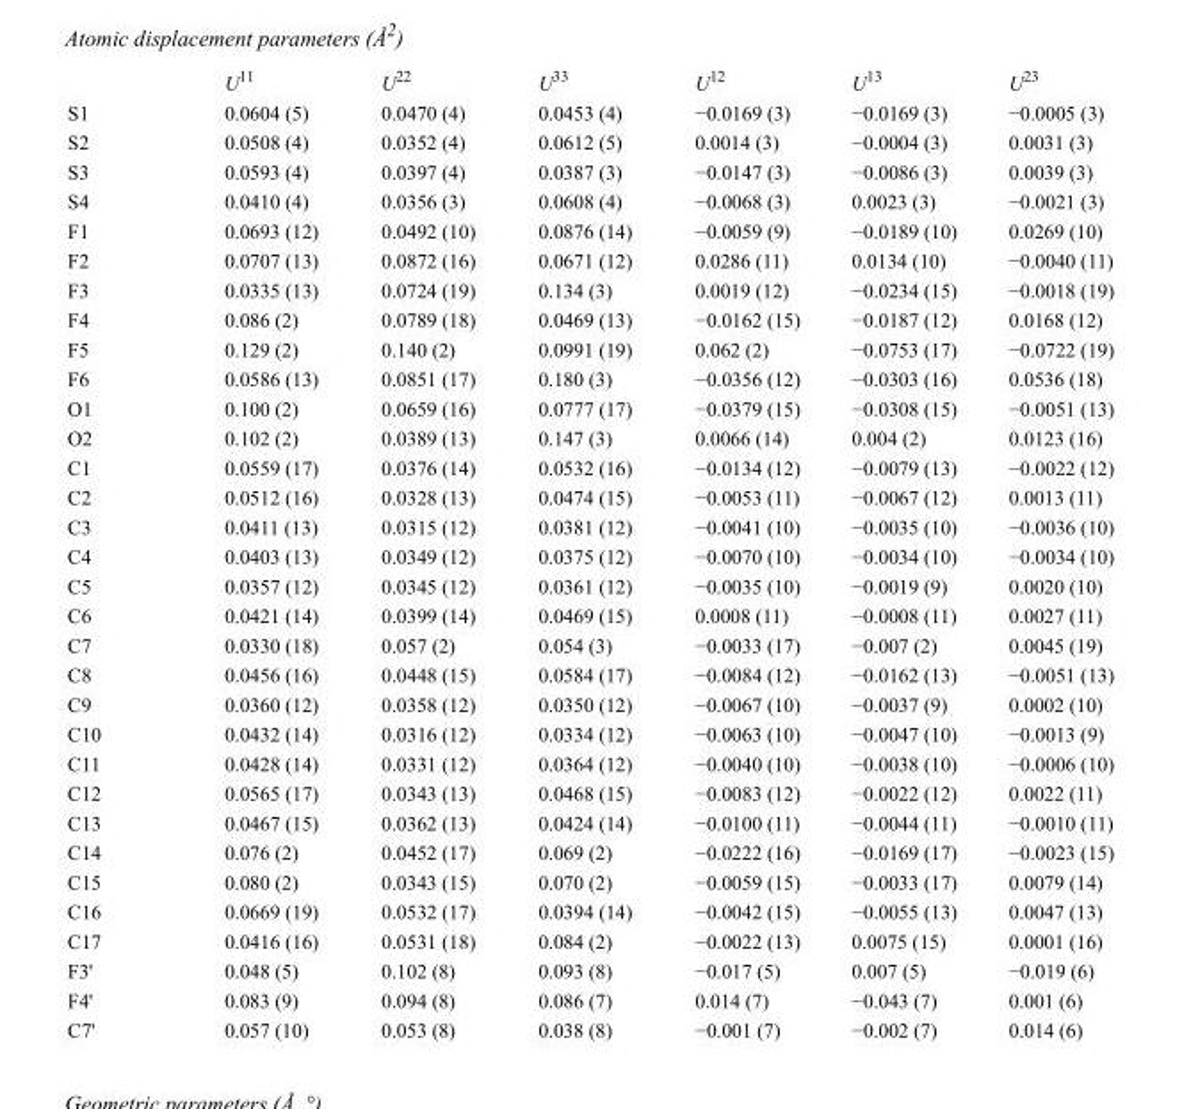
<table><thead><tr><td></td><td>U<sup>11</sup></td><td>U<sup>22</sup></td><td>U<sup>33</sup></td><td>U<sup>12</sup></td><td>U<sup>13</sup></td><td>U<sup>23</sup></td></tr></thead><tbody><tr><td>S1</td><td>0.0604 (5)</td><td>0.0470 (4)</td><td>0.0453 (4)</td><td>−0.0169 (3)</td><td>−0.0169 (3)</td><td>−0.0005 (3)</td></tr><tr><td>S2</td><td>0.0508 (4)</td><td>0.0352 (4)</td><td>0.0612 (5)</td><td>0.0014 (3)</td><td>−0.0004 (3)</td><td>0.0031 (3)</td></tr><tr><td>S3</td><td>0.0593 (4)</td><td>0.0397 (4)</td><td>0.0387 (3)</td><td>−0.0147 (3)</td><td>−0.0086 (3)</td><td>0.0039 (3)</td></tr><tr><td>S4</td><td>0.0410 (4)</td><td>0.0356 (3)</td><td>0.0608 (4)</td><td>−0.0068 (3)</td><td>0.0023 (3)</td><td>−0.0021 (3)</td></tr><tr><td>F1</td><td>0.0693 (12)</td><td>0.0492 (10)</td><td>0.0876 (14)</td><td>−0.0059 (9)</td><td>−0.0189 (10)</td><td>0.0269 (10)</td></tr><tr><td>F2</td><td>0.0707 (13)</td><td>0.0872 (16)</td><td>0.0671 (12)</td><td>0.0286 (11)</td><td>0.0134 (10)</td><td>−0.0040 (11)</td></tr><tr><td>F3</td><td>0.0335 (13)</td><td>0.0724 (19)</td><td>0.134 (3)</td><td>0.0019 (12)</td><td>−0.0234 (15)</td><td>−0.0018 (19)</td></tr><tr><td>F4</td><td>0.086 (2)</td><td>0.0789 (18)</td><td>0.0469 (13)</td><td>−0.0162 (15)</td><td>−0.0187 (12)</td><td>0.0168 (12)</td></tr><tr><td>F5</td><td>0.129 (2)</td><td>0.140 (2)</td><td>0.0991 (19)</td><td>0.062 (2)</td><td>−0.0753 (17)</td><td>−0.0722 (19)</td></tr><tr><td>F6</td><td>0.0586 (13)</td><td>0.0851 (17)</td><td>0.180 (3)</td><td>−0.0356 (12)</td><td>−0.0303 (16)</td><td>0.0536 (18)</td></tr><tr><td>O1</td><td>0.100 (2)</td><td>0.0659 (16)</td><td>0.0777 (17)</td><td>−0.0379 (15)</td><td>−0.0308 (15)</td><td>−0.0051 (13)</td></tr><tr><td>O2</td><td>0.102 (2)</td><td>0.0389 (13)</td><td>0.147 (3)</td><td>0.0066 (14)</td><td>0.004 (2)</td><td>0.0123 (16)</td></tr><tr><td>C1</td><td>0.0559 (17)</td><td>0.0376 (14)</td><td>0.0532 (16)</td><td>−0.0134 (12)</td><td>−0.0079 (13)</td><td>−0.0022 (12)</td></tr><tr><td>C2</td><td>0.0512 (16)</td><td>0.0328 (13)</td><td>0.0474 (15)</td><td>−0.0053 (11)</td><td>−0.0067 (12)</td><td>0.0013 (11)</td></tr><tr><td>C3</td><td>0.0411 (13)</td><td>0.0315 (12)</td><td>0.0381 (12)</td><td>−0.0041 (10)</td><td>−0.0035 (10)</td><td>−0.0036 (10)</td></tr><tr><td>C4</td><td>0.0403 (13)</td><td>0.0349 (12)</td><td>0.0375 (12)</td><td>−0.0070 (10)</td><td>−0.0034 (10)</td><td>−0.0034 (10)</td></tr><tr><td>C5</td><td>0.0357 (12)</td><td>0.0345 (12)</td><td>0.0361 (12)</td><td>−0.0035 (10)</td><td>−0.0019 (9)</td><td>0.0020 (10)</td></tr><tr><td>C6</td><td>0.0421 (14)</td><td>0.0399 (14)</td><td>0.0469 (15)</td><td>0.0008 (11)</td><td>−0.0008 (11)</td><td>0.0027 (11)</td></tr><tr><td>C7</td><td>0.0330 (18)</td><td>0.057 (2)</td><td>0.054 (3)</td><td>−0.0033 (17)</td><td>−0.007 (2)</td><td>0.0045 (19)</td></tr><tr><td>C8</td><td>0.0456 (16)</td><td>0.0448 (15)</td><td>0.0584 (17)</td><td>−0.0084 (12)</td><td>−0.0162 (13)</td><td>−0.0051 (13)</td></tr><tr><td>C9</td><td>0.0360 (12)</td><td>0.0358 (12)</td><td>0.0350 (12)</td><td>−0.0067 (10)</td><td>−0.0037 (9)</td><td>0.0002 (10)</td></tr><tr><td>C10</td><td>0.0432 (14)</td><td>0.0316 (12)</td><td>0.0334 (12)</td><td>−0.0063 (10)</td><td>−0.0047 (10)</td><td>−0.0013 (9)</td></tr><tr><td>C11</td><td>0.0428 (14)</td><td>0.0331 (12)</td><td>0.0364 (12)</td><td>−0.0040 (10)</td><td>−0.0038 (10)</td><td>−0.0006 (10)</td></tr><tr><td>C12</td><td>0.0565 (17)</td><td>0.0343 (13)</td><td>0.0468 (15)</td><td>−0.0083 (12)</td><td>−0.0022 (12)</td><td>0.0022 (11)</td></tr><tr><td>C13</td><td>0.0467 (15)</td><td>0.0362 (13)</td><td>0.0424 (14)</td><td>−0.0100 (11)</td><td>−0.0044 (11)</td><td>−0.0010 (11)</td></tr><tr><td>C14</td><td>0.076 (2)</td><td>0.0452 (17)</td><td>0.069 (2)</td><td>−0.0222 (16)</td><td>−0.0169 (17)</td><td>−0.0023 (15)</td></tr><tr><td>C15</td><td>0.080 (2)</td><td>0.0343 (15)</td><td>0.070 (2)</td><td>−0.0059 (15)</td><td>−0.0033 (17)</td><td>0.0079 (14)</td></tr><tr><td>C16</td><td>0.0669 (19)</td><td>0.0532 (17)</td><td>0.0394 (14)</td><td>−0.0042 (15)</td><td>−0.0055 (13)</td><td>0.0047 (13)</td></tr><tr><td>C17</td><td>0.0416 (16)</td><td>0.0531 (18)</td><td>0.084 (2)</td><td>−0.0022 (13)</td><td>0.0075 (15)</td><td>0.0001 (16)</td></tr><tr><td>F3&#x27;</td><td>0.048 (5)</td><td>0.102 (8)</td><td>0.093 (8)</td><td>−0.017 (5)</td><td>0.007 (5)</td><td>−0.019 (6)</td></tr><tr><td>F4&#x27;</td><td>0.083 (9)</td><td>0.094 (8)</td><td>0.086 (7)</td><td>0.014 (7)</td><td>−0.043 (7)</td><td>0.001 (6)</td></tr><tr><td>C7&#x27;</td><td>0.057 (10)</td><td>0.053 (8)</td><td>0.038 (8)</td><td>−0.001 (7)</td><td>−0.002 (7)</td><td>0.014 (6)</td></tr></tbody></table>